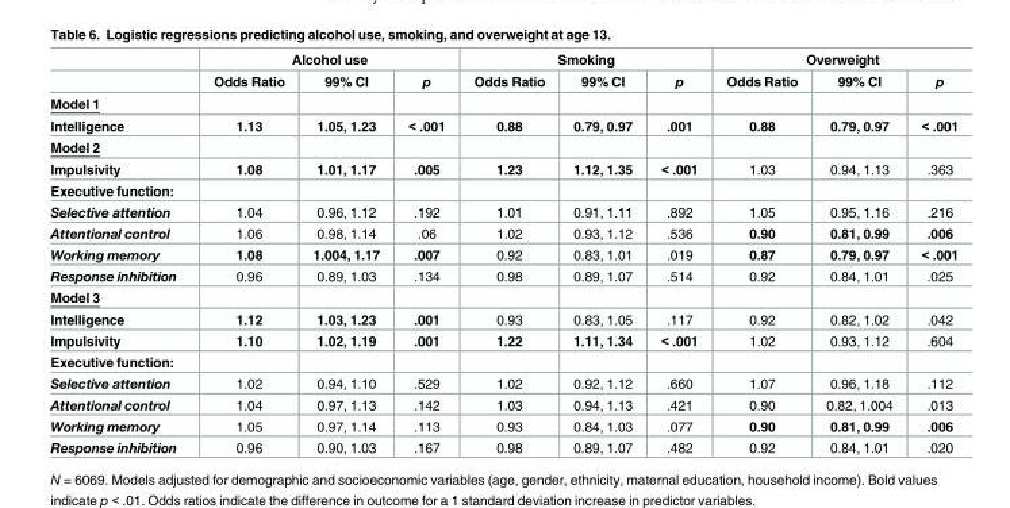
<table><thead><tr><td rowspan="2"></td><td colspan="3">Alcohol use</td><td colspan="3">Smoking</td><td colspan="3">Overweight</td></tr><tr><td>Odds Ratio</td><td>99% CI</td><td>p</td><td>Odds Ratio</td><td>99% CI</td><td>p</td><td>Odds Ratio</td><td>99% CI</td><td>p</td></tr></thead><tbody><tr><td colspan="10">Model 1</td></tr><tr><td>Intelligence</td><td>1.13</td><td>1.05, 1.23</td><td>&lt; .001</td><td>0.88</td><td>0.79, 0.97</td><td>.001</td><td>0.88</td><td>0.79, 0.97</td><td>&lt; .001</td></tr><tr><td colspan="10">Model 2</td></tr><tr><td>Impulsivity</td><td>1.08</td><td>1.01, 1.17</td><td>.005</td><td>1.23</td><td>1.12, 1.35</td><td>&lt; .001</td><td>1.03</td><td>0.94, 1.13</td><td>.363</td></tr><tr><td colspan="10">Executive function:</td></tr><tr><td>Selective attention</td><td>1.04</td><td>0.96, 1.12</td><td>.192</td><td>1.01</td><td>0.91, 1.11</td><td>.892</td><td>1.05</td><td>0.95, 1.16</td><td>.216</td></tr><tr><td>Attentional control</td><td>1.06</td><td>0.98, 1.14</td><td>.06</td><td>1.02</td><td>0.93, 1.12</td><td>.536</td><td>0.90</td><td>0.81, 0.99</td><td>.006</td></tr><tr><td>Working memory</td><td>1.08</td><td>1.004, 1.17</td><td>.007</td><td>0.92</td><td>0.83, 1.01</td><td>.019</td><td>0.87</td><td>0.79, 0.97</td><td>&lt; .001</td></tr><tr><td>Response inhibition</td><td>0.96</td><td>0.89, 1.03</td><td>.134</td><td>0.98</td><td>0.89, 1.07</td><td>.514</td><td>0.92</td><td>0.84, 1.01</td><td>.025</td></tr><tr><td colspan="10">Model 3</td></tr><tr><td>Intelligence</td><td>1.12</td><td>1.03, 1.23</td><td>.001</td><td>0.93</td><td>0.83, 1.05</td><td>.117</td><td>0.92</td><td>0.82, 1.02</td><td>.042</td></tr><tr><td>Impulsivity</td><td>1.10</td><td>1.02, 1.19</td><td>.001</td><td>1.22</td><td>1.11, 1.34</td><td>&lt; .001</td><td>1.02</td><td>0.93, 1.12</td><td>.604</td></tr><tr><td colspan="10">Executive function:</td></tr><tr><td>Selective attention</td><td>1.02</td><td>0.94, 1.10</td><td>.529</td><td>1.02</td><td>0.92, 1.12</td><td>.660</td><td>1.07</td><td>0.96, 1.18</td><td>.112</td></tr><tr><td>Attentional control</td><td>1.04</td><td>0.97, 1.13</td><td>.142</td><td>1.03</td><td>0.94, 1.13</td><td>.421</td><td>0.90</td><td>0.82, 1.004</td><td>.013</td></tr><tr><td>Working memory</td><td>1.05</td><td>0.97, 1.14</td><td>.113</td><td>0.93</td><td>0.84, 1.03</td><td>.077</td><td>0.90</td><td>0.81, 0.99</td><td>.006</td></tr><tr><td>Response inhibition</td><td>0.96</td><td>0.90, 1.03</td><td>.167</td><td>0.98</td><td>0.89, 1.07</td><td>.482</td><td>0.92</td><td>0.84, 1.01</td><td>.020</td></tr></tbody></table>